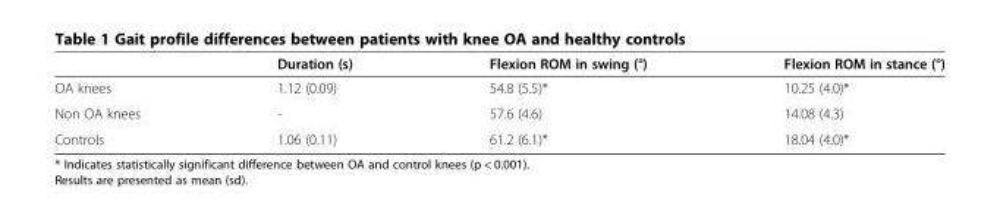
<table><thead><tr><td></td><td>Duration (s)</td><td>Flexion ROM in swing (°)</td><td>Flexion ROM in stance (°)</td></tr></thead><tbody><tr><td>OA knees</td><td>1.12 (0.09)</td><td>54.8 (5.5)*</td><td>10.25 (4.0)*</td></tr><tr><td>Non OA knees</td><td>-</td><td>57.6 (4.6)</td><td>14.08 (4.3)</td></tr><tr><td>Controls</td><td>1.06 (0.11)</td><td>61.2 (6.1)*</td><td>18.04 (4.0)*</td></tr></tbody></table>